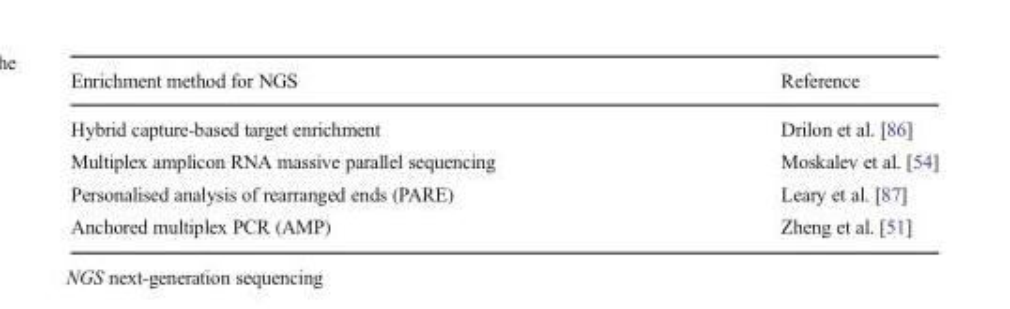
<table><thead><tr><td>Enrichment method for NGS</td><td>Reference</td></tr></thead><tbody><tr><td>Hybrid capture-based target enrichment</td><td>Drilon et al. [86]</td></tr><tr><td>Multiplex amplicon RNA massive parallel sequencing</td><td>Moskalev et al. [54]</td></tr><tr><td>Personalised analysis of rearranged ends (PARE)</td><td>Leary et al. [87]</td></tr><tr><td>Anchored multiplex PCR (AMP)</td><td>Zheng et al. [51]</td></tr></tbody></table>